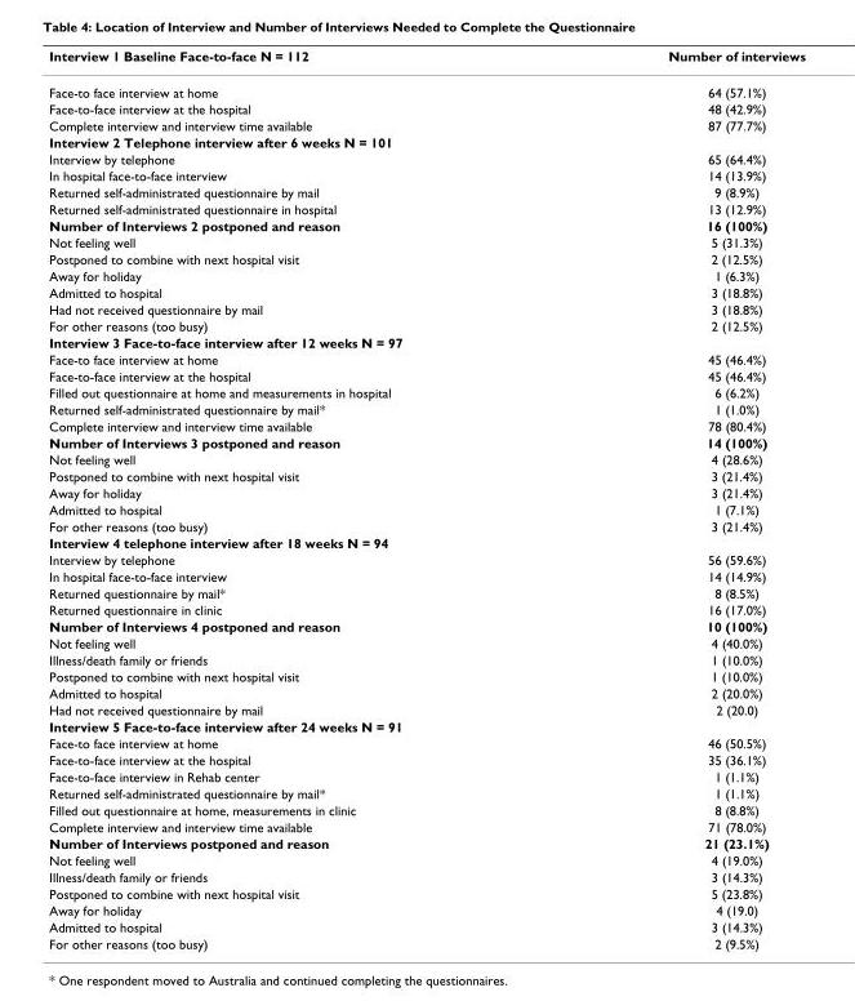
<table><thead><tr><td>Interview 1 Baseline Face-to-face N = 112</td><td>Number of interviews</td></tr></thead><tbody><tr><td>Face-to face interview at home</td><td>64 (57.1%)</td></tr><tr><td>Face-to-face interview at the hospital</td><td>48 (42.9%)</td></tr><tr><td>Complete interview and interview time available</td><td>87 (77.7%)</td></tr><tr><td colspan="2">Interview 2 Telephone interview after 6 weeks N = 101</td></tr><tr><td>Interview by telephone</td><td>65 (64.4%)</td></tr><tr><td>In hospital face-to-face interview</td><td>14 (13.9%)</td></tr><tr><td>Returned self-administrated questionnaire by mail</td><td>9 (8.9%)</td></tr><tr><td>Returned self-administrated questionnaire in hospital</td><td>13 (12.9%)</td></tr><tr><td>Number of Interviews 2 postponed and reason</td><td>16 (100%)</td></tr><tr><td>Not feeling well</td><td>5 (31.3%)</td></tr><tr><td>Postponed to combine with next hospital visit</td><td>2 (12.5%)</td></tr><tr><td>Away for holiday</td><td>1 (6.3%)</td></tr><tr><td>Admitted to hospital</td><td>3 (18.8%)</td></tr><tr><td>Had not received questionnaire by mail</td><td>3 (18.8%)</td></tr><tr><td>For other reasons (too busy)</td><td>2 (12.5%)</td></tr><tr><td colspan="2">Interview 3 Face-to-face interview after 12 weeks N = 97</td></tr><tr><td>Face-to face interview at home</td><td>45 (46.4%)</td></tr><tr><td>Face-to-face interview at the hospital</td><td>45 (46.4%)</td></tr><tr><td>Filled out questionnaire at home and measurements in hospital</td><td>6 (6.2%)</td></tr><tr><td>Returned self-administrated questionnaire by mail*</td><td>1 (1.0%)</td></tr><tr><td>Complete interview and interview time available</td><td>78 (80.4%)</td></tr><tr><td>Number of Interviews 3 postponed and reason</td><td>14 (100%)</td></tr><tr><td>Not feeling well</td><td>4 (28.6%)</td></tr><tr><td>Postponed to combine with next hospital visit</td><td>3 (21.4%)</td></tr><tr><td>Away for holiday</td><td>3 (21.4%)</td></tr><tr><td>Admitted to hospital</td><td>1 (7.1%)</td></tr><tr><td>For other reasons (too busy)</td><td>3 (21.4%)</td></tr><tr><td colspan="2">Interview 4 telephone interview after 18 weeks N = 94</td></tr><tr><td>Interview by telephone</td><td>56 (59.6%)</td></tr><tr><td>In hospital face-to-face interview</td><td>14 (14.9%)</td></tr><tr><td>Returned questionnaire by mail*</td><td>8 (8.5%)</td></tr><tr><td>Returned questionnaire in clinic</td><td>16 (17.0%)</td></tr><tr><td>Number of Interviews 4 postponed and reason</td><td>10 (100%)</td></tr><tr><td>Not feeling well</td><td>4 (40.0%)</td></tr><tr><td>Illness/death family or friends</td><td>1 (10.0%)</td></tr><tr><td>Postponed to combine with next hospital visit</td><td>1 (10.0%)</td></tr><tr><td>Admitted to hospital</td><td>2 (20.0%)</td></tr><tr><td>Had not received questionnaire by mail</td><td>2 (20.0)</td></tr><tr><td colspan="2">Interview 5 Face-to-face interview after 24 weeks N = 91</td></tr><tr><td>Face-to face interview at home</td><td>46 (50.5%)</td></tr><tr><td>Face-to-face interview at the hospital</td><td>35 (36.1%)</td></tr><tr><td>Face-to-face interview in Rehab center</td><td>1 (1.1%)</td></tr><tr><td>Returned self-administrated questionnaire by mail*</td><td>1 (1.1%)</td></tr><tr><td>Filled out questionnaire at home, measurements in clinic</td><td>8 (8.8%)</td></tr><tr><td>Complete interview and interview time available</td><td>71 (78.0%)</td></tr><tr><td>Number of Interviews postponed and reason</td><td>21 (23.1%)</td></tr><tr><td>Not feeling well</td><td>4 (19.0%)</td></tr><tr><td>Illness/death family or friends</td><td>3 (14.3%)</td></tr><tr><td>Postponed to combine with next hospital visit</td><td>5 (23.8%)</td></tr><tr><td>Away for holiday</td><td>4 (19.0)</td></tr><tr><td>Admitted to hospital</td><td>3 (14.3%)</td></tr><tr><td>For other reasons (too busy)</td><td>2 (9.5%)</td></tr></tbody></table>